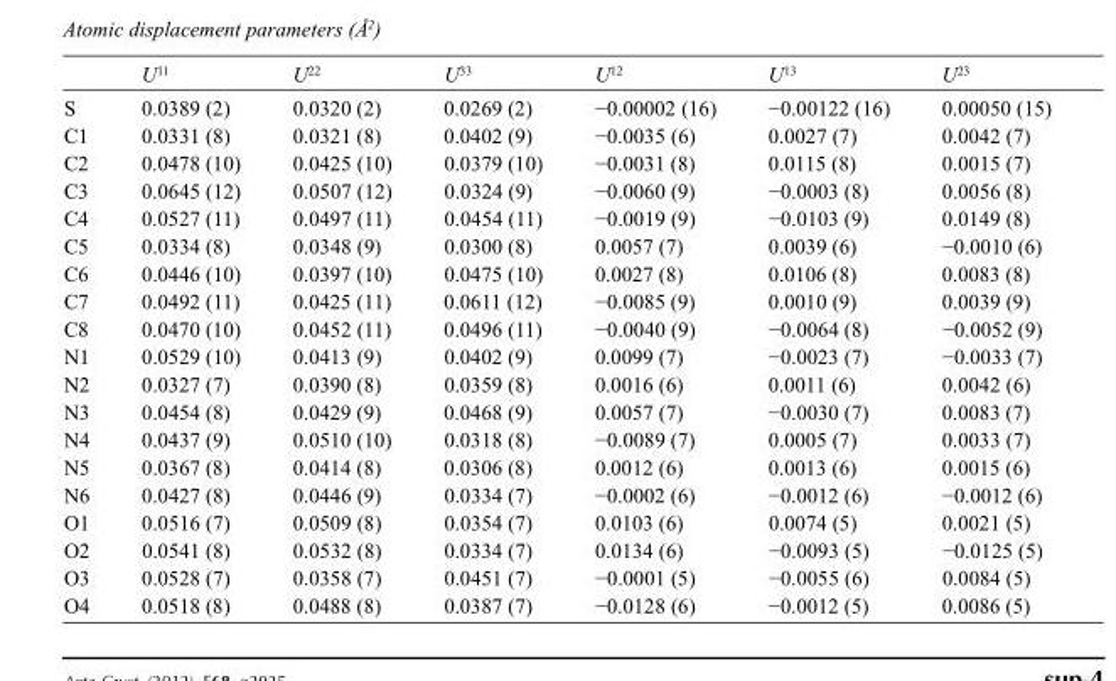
<table><thead><tr><td></td><td>U<sup>11</sup></td><td>U<sup>22</sup></td><td>U<sup>33</sup></td><td>U<sup>12</sup></td><td>U<sup>13</sup></td><td>U<sup>23</sup></td></tr></thead><tbody><tr><td>S</td><td>0.0389 (2)</td><td>0.0320 (2)</td><td>0.0269 (2)</td><td>−0.00002 (16)</td><td>−0.00122 (16)</td><td>0.00050 (15)</td></tr><tr><td>C1</td><td>0.0331 (8)</td><td>0.0321 (8)</td><td>0.0402 (9)</td><td>−0.0035 (6)</td><td>0.0027 (7)</td><td>0.0042 (7)</td></tr><tr><td>C2</td><td>0.0478 (10)</td><td>0.0425 (10)</td><td>0.0379 (10)</td><td>−0.0031 (8)</td><td>0.0115 (8)</td><td>0.0015 (7)</td></tr><tr><td>C3</td><td>0.0645 (12)</td><td>0.0507 (12)</td><td>0.0324 (9)</td><td>−0.0060 (9)</td><td>−0.0003 (8)</td><td>0.0056 (8)</td></tr><tr><td>C4</td><td>0.0527 (11)</td><td>0.0497 (11)</td><td>0.0454 (11)</td><td>−0.0019 (9)</td><td>−0.0103 (9)</td><td>0.0149 (8)</td></tr><tr><td>C5</td><td>0.0334 (8)</td><td>0.0348 (9)</td><td>0.0300 (8)</td><td>0.0057 (7)</td><td>0.0039 (6)</td><td>−0.0010 (6)</td></tr><tr><td>C6</td><td>0.0446 (10)</td><td>0.0397 (10)</td><td>0.0475 (10)</td><td>0.0027 (8)</td><td>0.0106 (8)</td><td>0.0083 (8)</td></tr><tr><td>C7</td><td>0.0492 (11)</td><td>0.0425 (11)</td><td>0.0611 (12)</td><td>−0.0085 (9)</td><td>0.0010 (9)</td><td>0.0039 (9)</td></tr><tr><td>C8</td><td>0.0470 (10)</td><td>0.0452 (11)</td><td>0.0496 (11)</td><td>−0.0040 (9)</td><td>−0.0064 (8)</td><td>−0.0052 (9)</td></tr><tr><td>N1</td><td>0.0529 (10)</td><td>0.0413 (9)</td><td>0.0402 (9)</td><td>0.0099 (7)</td><td>−0.0023 (7)</td><td>−0.0033 (7)</td></tr><tr><td>N2</td><td>0.0327 (7)</td><td>0.0390 (8)</td><td>0.0359 (8)</td><td>0.0016 (6)</td><td>0.0011 (6)</td><td>0.0042 (6)</td></tr><tr><td>N3</td><td>0.0454 (8)</td><td>0.0429 (9)</td><td>0.0468 (9)</td><td>0.0057 (7)</td><td>−0.0030 (7)</td><td>0.0083 (7)</td></tr><tr><td>N4</td><td>0.0437 (9)</td><td>0.0510 (10)</td><td>0.0318 (8)</td><td>−0.0089 (7)</td><td>0.0005 (7)</td><td>0.0033 (7)</td></tr><tr><td>N5</td><td>0.0367 (8)</td><td>0.0414 (8)</td><td>0.0306 (8)</td><td>0.0012 (6)</td><td>0.0013 (6)</td><td>0.0015 (6)</td></tr><tr><td>N6</td><td>0.0427 (8)</td><td>0.0446 (9)</td><td>0.0334 (7)</td><td>−0.0002 (6)</td><td>−0.0012 (6)</td><td>−0.0012 (6)</td></tr><tr><td>O1</td><td>0.0516 (7)</td><td>0.0509 (8)</td><td>0.0354 (7)</td><td>0.0103 (6)</td><td>0.0074 (5)</td><td>0.0021 (5)</td></tr><tr><td>O2</td><td>0.0541 (8)</td><td>0.0532 (8)</td><td>0.0334 (7)</td><td>0.0134 (6)</td><td>−0.0093 (5)</td><td>−0.0125 (5)</td></tr><tr><td>O3</td><td>0.0528 (7)</td><td>0.0358 (7)</td><td>0.0451 (7)</td><td>−0.0001 (5)</td><td>−0.0055 (6)</td><td>0.0084 (5)</td></tr><tr><td>O4</td><td>0.0518 (8)</td><td>0.0488 (8)</td><td>0.0387 (7)</td><td>−0.0128 (6)</td><td>−0.0012 (5)</td><td>0.0086 (5)</td></tr></tbody></table>